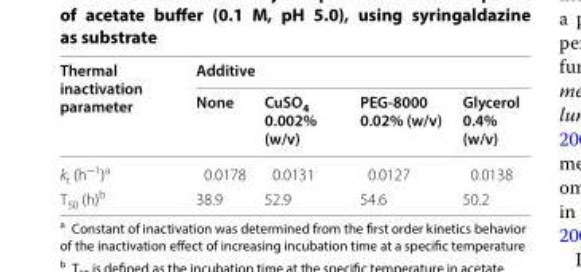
<table><thead><tr><td rowspan="2">Thermal inactivation parameter</td><td colspan="4">Additive</td></tr><tr><td>None</td><td>CuSO<sub>4</sub> 0.002% (w/v)</td><td>PEG-8000 0.02% (w/v)</td><td>Glycerol 0.4% (w/v)</td></tr></thead><tbody><tr><td>k<sub>t</sub> (h<sup>−1</sup>)<sup>a</sup></td><td>0.0178</td><td>0.0131</td><td>0.0127</td><td>0.0138</td></tr><tr><td>T<sub>50</sub> (h)<sup>b</sup></td><td>38.9</td><td>52.9</td><td>54.6</td><td>50.2</td></tr></tbody></table>